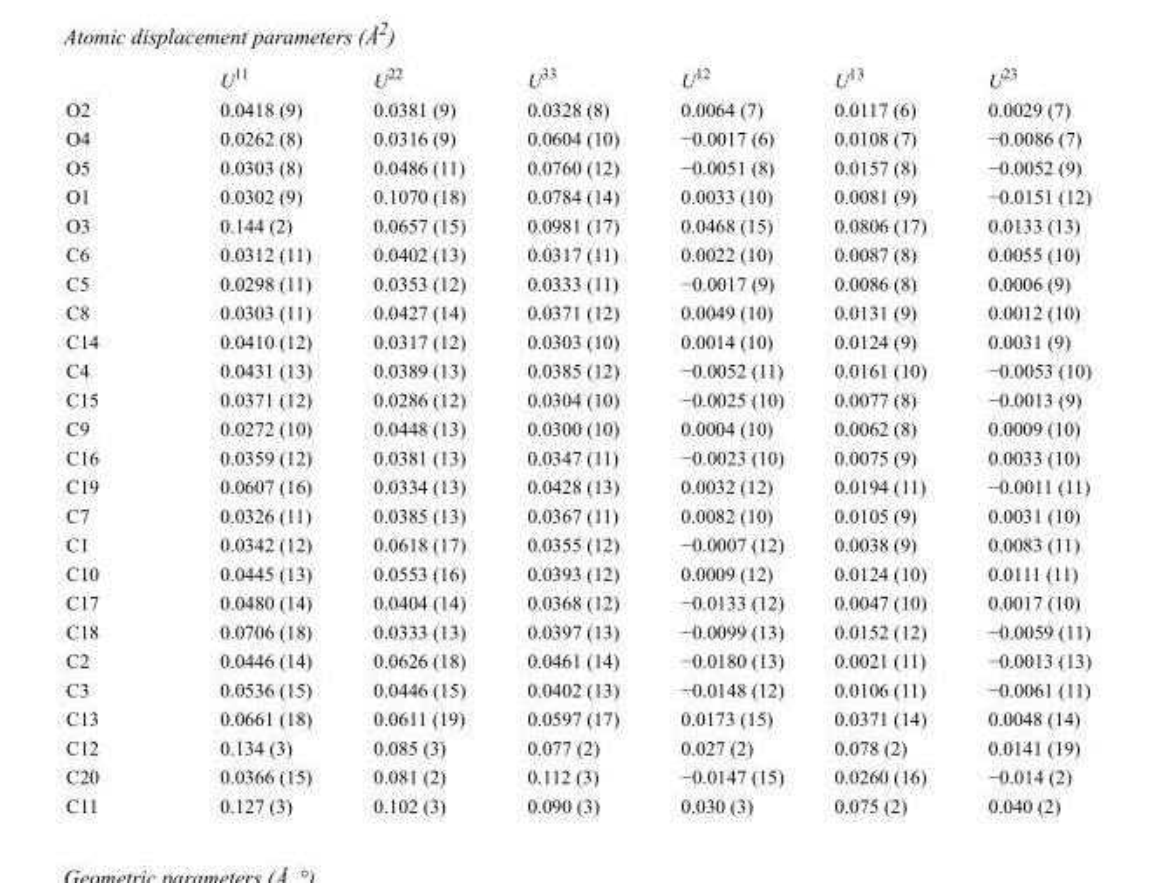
<table><thead><tr><td></td><td>U<sup>11</sup></td><td>U<sup>22</sup></td><td>U<sup>33</sup></td><td>U<sup>12</sup></td><td>U<sup>13</sup></td><td>U<sup>23</sup></td></tr></thead><tbody><tr><td>O2</td><td>0.0418 (9)</td><td>0.0381 (9)</td><td>0.0328 (8)</td><td>0.0064 (7)</td><td>0.0117 (6)</td><td>0.0029 (7)</td></tr><tr><td>O4</td><td>0.0262 (8)</td><td>0.0316 (9)</td><td>0.0604 (10)</td><td>−0.0017 (6)</td><td>0.0108 (7)</td><td>−0.0086 (7)</td></tr><tr><td>O5</td><td>0.0303 (8)</td><td>0.0486 (11)</td><td>0.0760 (12)</td><td>−0.0051 (8)</td><td>0.0157 (8)</td><td>−0.0052 (9)</td></tr><tr><td>O1</td><td>0.0302 (9)</td><td>0.1070 (18)</td><td>0.0784 (14)</td><td>0.0033 (10)</td><td>0.0081 (9)</td><td>−0.0151 (12)</td></tr><tr><td>O3</td><td>0.144 (2)</td><td>0.0657 (15)</td><td>0.0981 (17)</td><td>0.0468 (15)</td><td>0.0806 (17)</td><td>0.0133 (13)</td></tr><tr><td>C6</td><td>0.0312 (11)</td><td>0.0402 (13)</td><td>0.0317 (11)</td><td>0.0022 (10)</td><td>0.0087 (8)</td><td>0.0055 (10)</td></tr><tr><td>C5</td><td>0.0298 (11)</td><td>0.0353 (12)</td><td>0.0333 (11)</td><td>−0.0017 (9)</td><td>0.0086 (8)</td><td>0.0006 (9)</td></tr><tr><td>C8</td><td>0.0303 (11)</td><td>0.0427 (14)</td><td>0.0371 (12)</td><td>0.0049 (10)</td><td>0.0131 (9)</td><td>0.0012 (10)</td></tr><tr><td>C14</td><td>0.0410 (12)</td><td>0.0317 (12)</td><td>0.0303 (10)</td><td>0.0014 (10)</td><td>0.0124 (9)</td><td>0.0031 (9)</td></tr><tr><td>C4</td><td>0.0431 (13)</td><td>0.0389 (13)</td><td>0.0385 (12)</td><td>−0.0052 (11)</td><td>0.0161 (10)</td><td>−0.0053 (10)</td></tr><tr><td>C15</td><td>0.0371 (12)</td><td>0.0286 (12)</td><td>0.0304 (10)</td><td>−0.0025 (10)</td><td>0.0077 (8)</td><td>−0.0013 (9)</td></tr><tr><td>C9</td><td>0.0272 (10)</td><td>0.0448 (13)</td><td>0.0300 (10)</td><td>0.0004 (10)</td><td>0.0062 (8)</td><td>0.0009 (10)</td></tr><tr><td>C16</td><td>0.0359 (12)</td><td>0.0381 (13)</td><td>0.0347 (11)</td><td>−0.0023 (10)</td><td>0.0075 (9)</td><td>0.0033 (10)</td></tr><tr><td>C19</td><td>0.0607 (16)</td><td>0.0334 (13)</td><td>0.0428 (13)</td><td>0.0032 (12)</td><td>0.0194 (11)</td><td>−0.0011 (11)</td></tr><tr><td>C7</td><td>0.0326 (11)</td><td>0.0385 (13)</td><td>0.0367 (11)</td><td>0.0082 (10)</td><td>0.0105 (9)</td><td>0.0031 (10)</td></tr><tr><td>C1</td><td>0.0342 (12)</td><td>0.0618 (17)</td><td>0.0355 (12)</td><td>−0.0007 (12)</td><td>0.0038 (9)</td><td>0.0083 (11)</td></tr><tr><td>C10</td><td>0.0445 (13)</td><td>0.0553 (16)</td><td>0.0393 (12)</td><td>0.0009 (12)</td><td>0.0124 (10)</td><td>0.0111 (11)</td></tr><tr><td>C17</td><td>0.0480 (14)</td><td>0.0404 (14)</td><td>0.0368 (12)</td><td>−0.0133 (12)</td><td>0.0047 (10)</td><td>0.0017 (10)</td></tr><tr><td>C18</td><td>0.0706 (18)</td><td>0.0333 (13)</td><td>0.0397 (13)</td><td>−0.0099 (13)</td><td>0.0152 (12)</td><td>−0.0059 (11)</td></tr><tr><td>C2</td><td>0.0446 (14)</td><td>0.0626 (18)</td><td>0.0461 (14)</td><td>−0.0180 (13)</td><td>0.0021 (11)</td><td>−0.0013 (13)</td></tr><tr><td>C3</td><td>0.0536 (15)</td><td>0.0446 (15)</td><td>0.0402 (13)</td><td>−0.0148 (12)</td><td>0.0106 (11)</td><td>−0.0061 (11)</td></tr><tr><td>C13</td><td>0.0661 (18)</td><td>0.0611 (19)</td><td>0.0597 (17)</td><td>0.0173 (15)</td><td>0.0371 (14)</td><td>0.0048 (14)</td></tr><tr><td>C12</td><td>0.134 (3)</td><td>0.085 (3)</td><td>0.077 (2)</td><td>0.027 (2)</td><td>0.078 (2)</td><td>0.0141 (19)</td></tr><tr><td>C20</td><td>0.0366 (15)</td><td>0.081 (2)</td><td>0.112 (3)</td><td>−0.0147 (15)</td><td>0.0260 (16)</td><td>−0.014 (2)</td></tr><tr><td>C11</td><td>0.127 (3)</td><td>0.102 (3)</td><td>0.090 (3)</td><td>0.030 (3)</td><td>0.075 (2)</td><td>0.040 (2)</td></tr></tbody></table>